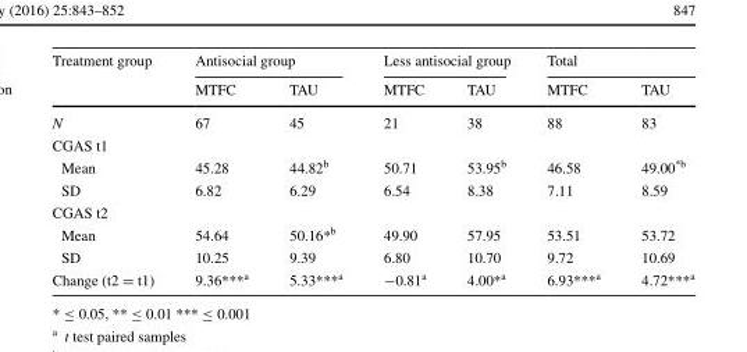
<table><thead><tr><td rowspan="2">Treatment group</td><td colspan="2">Antisocial group</td><td colspan="2">Less antisocial group</td><td colspan="2">Total</td></tr><tr><td>MTFC</td><td>TAU</td><td>MTFC</td><td>TAU</td><td>MTFC</td><td>TAU</td></tr></thead><tbody><tr><td>N</td><td>67</td><td>45</td><td>21</td><td>38</td><td>88</td><td>83</td></tr><tr><td colspan="7">CGAS t1</td></tr><tr><td>Mean</td><td>45.28</td><td>44.82<sup>b</sup></td><td>50.71</td><td>53.95<sup>b</sup></td><td>46.58</td><td>49.00<sup>*b</sup></td></tr><tr><td>SD</td><td>6.82</td><td>6.29</td><td>6.54</td><td>8.38</td><td>7.11</td><td>8.59</td></tr><tr><td colspan="7">CGAS t2</td></tr><tr><td>Mean</td><td>54.64</td><td>50.16*<sup>b</sup></td><td>49.90</td><td>57.95</td><td>53.51</td><td>53.72</td></tr><tr><td>SD</td><td>10.25</td><td>9.39</td><td>6.80</td><td>10.70</td><td>9.72</td><td>10.69</td></tr><tr><td>Change (t2 = t1)</td><td>9.36***<sup>a</sup></td><td>5.33***<sup>a</sup></td><td>−0.81<sup>a</sup></td><td>4.00*<sup>a</sup></td><td>6.93***<sup>a</sup></td><td>4.72***<sup>a</sup></td></tr></tbody></table>